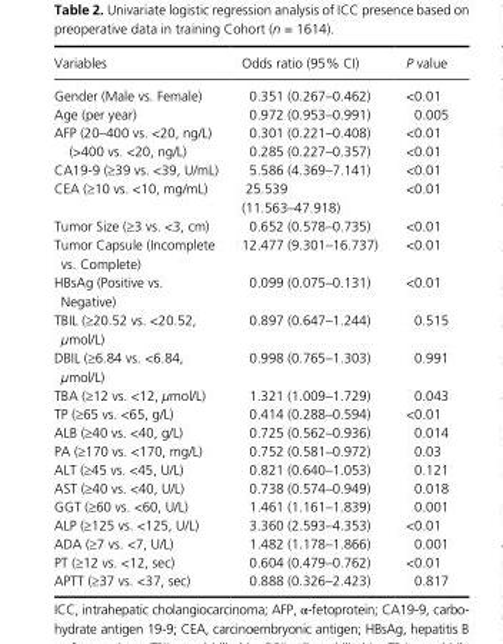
<table><thead><tr><td>Variables</td><td>Odds ratio (95% CI)</td><td>P value</td></tr></thead><tbody><tr><td>Gender (Male vs. Female)</td><td>0.351 (0.267–0.462)</td><td>&lt;0.01</td></tr><tr><td>Age (per year)</td><td>0.972 (0.953–0.991)</td><td>0.005</td></tr><tr><td>AFP (20–400 vs. &lt;20, ng/L)</td><td>0.301 (0.221–0.408)</td><td>&lt;0.01</td></tr><tr><td>(&gt;400 vs. &lt;20, ng/L)</td><td>0.285 (0.227–0.357)</td><td>&lt;0.01</td></tr><tr><td>CA19- 9 (≥39 vs. &lt;39, U/mL)</td><td>5.586 (4.369–7.141)</td><td>&lt;0.01</td></tr><tr><td>CEA (≥10 vs. &lt;10, mg/mL)</td><td>25.539 (11.563–47.918)</td><td>&lt;0.01</td></tr><tr><td>Tumor Size (≥3 vs. &lt;3, cm)</td><td>0.652 (0.578–0.735)</td><td>&lt;0.01</td></tr><tr><td>Tumor Capsule (Incomplete vs. Complete)</td><td>12.477 (9.301–16.737)</td><td>&lt;0.01</td></tr><tr><td>HBsAg (Positive vs. Negative)</td><td>0.099 (0.075–0.131)</td><td>&lt;0.01</td></tr><tr><td>TBIL (≥20.52 vs. &lt;20.52, μmol/L)</td><td>0.897 (0.647–1.244)</td><td>0.515</td></tr><tr><td>DBIL (≥6.84 vs. &lt;6.84, μmol/L)</td><td>0.998 (0.765–1.303)</td><td>0.991</td></tr><tr><td>TBA (≥12 vs. &lt;12, μmol/L)</td><td>1.321 (1.009–1.729)</td><td>0.043</td></tr><tr><td>TP (≥65 vs. &lt;65, g/L)</td><td>0.414 (0.288–0.594)</td><td>&lt;0.01</td></tr><tr><td>ALB (≥40 vs. &lt;40, g/L)</td><td>0.725 (0.562–0.936)</td><td>0.014</td></tr><tr><td>PA (≥170 vs. &lt;170, mg/L)</td><td>0.752 (0.581–0.972)</td><td>0.03</td></tr><tr><td>ALT (≥45 vs. &lt;45, U/L)</td><td>0.821 (0.640–1.053)</td><td>0.121</td></tr><tr><td>AST (≥40 vs. &lt;40, U/L)</td><td>0.738 (0.574–0.949)</td><td>0.018</td></tr><tr><td>GGT (≥60 vs. &lt;60, U/L)</td><td>1.461 (1.161–1.839)</td><td>0.001</td></tr><tr><td>ALP (≥125 vs. &lt;125, U/L)</td><td>3.360 (2.593–4.353)</td><td>&lt;0.01</td></tr><tr><td>ADA (≥7 vs. &lt;7, U/L)</td><td>1.482 (1.178–1.866)</td><td>0.001</td></tr><tr><td>PT (≥12 vs. &lt;12, sec)</td><td>0.604 (0.479–0.762)</td><td>&lt;0.01</td></tr><tr><td>APTT (≥37 vs. &lt;37, sec)</td><td>0.888 (0.326–2.423)</td><td>0.817</td></tr></tbody></table>